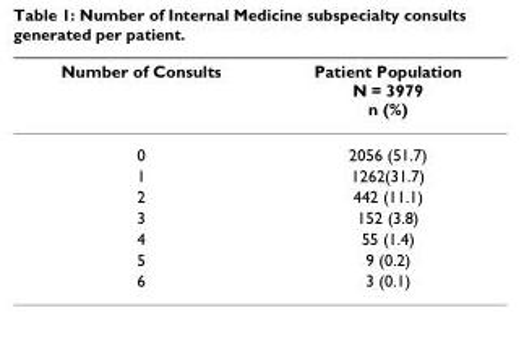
<table><thead><tr><td>Number of Consults</td><td>Patient Population N = 3979 n (%)</td></tr></thead><tbody><tr><td>0</td><td>2056 (51.7)</td></tr><tr><td>1</td><td>1262(31.7)</td></tr><tr><td>2</td><td>442 (11.1)</td></tr><tr><td>3</td><td>152 (3.8)</td></tr><tr><td>4</td><td>55 (1.4)</td></tr><tr><td>5</td><td>9 (0.2)</td></tr><tr><td>6</td><td>3 (0.1)</td></tr></tbody></table>